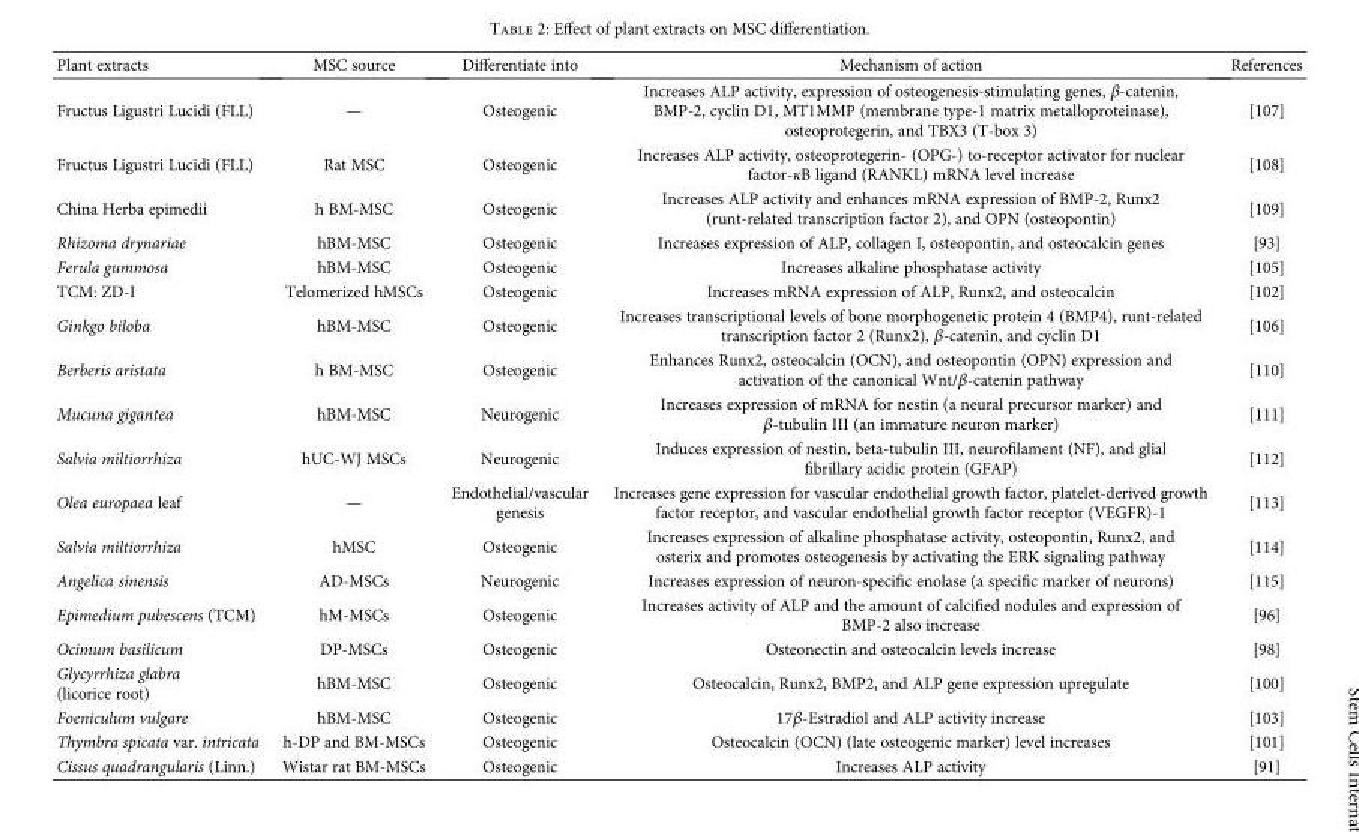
<table><thead><tr><td>Plant extracts</td><td>MSC source</td><td>Differentiate into</td><td>Mechanism of action</td><td>References</td></tr></thead><tbody><tr><td>Fructus Ligustri Lucidi (FLL)</td><td>—</td><td>Osteogenic</td><td>Increases ALP activity, expression of osteogenesis-stimulating genes, β-catenin, BMP-2, cyclin D1, MT1MMP (membrane type-1 matrix metalloproteinase), osteoprotegerin, and TBX3 (T-box 3)</td><td>[107]</td></tr><tr><td>Fructus Ligustri Lucidi (FLL)</td><td>Rat MSC</td><td>Osteogenic</td><td>Increases ALP activity, osteoprotegerin- (OPG-) to-receptor activator for nuclear factor-κB ligand (RANKL) mRNA level increase</td><td>[108]</td></tr><tr><td>China Herba epimedii</td><td>h BM-MSC</td><td>Osteogenic</td><td>Increases ALP activity and enhances mRNA expression of BMP-2, Runx2 (runt-related transcription factor 2), and OPN (osteopontin)</td><td>[109]</td></tr><tr><td>Rhizoma drynariae</td><td>hBM-MSC</td><td>Osteogenic</td><td>Increases expression of ALP, collagen I, osteopontin, and osteocalcin genes</td><td>[93]</td></tr><tr><td>Ferula gummosa</td><td>hBM-MSC</td><td>Osteogenic</td><td>Increases alkaline phosphatase activity</td><td>[105]</td></tr><tr><td>TCM: ZD-I</td><td>Telomerized hMSCs</td><td>Osteogenic</td><td>Increases mRNA expression of ALP, Runx2, and osteocalcin</td><td>[102]</td></tr><tr><td>Ginkgo biloba</td><td>hBM-MSC</td><td>Osteogenic</td><td>Increases transcriptional levels of bone morphogenetic protein 4 (BMP4), runt-related transcription factor 2 (Runx2), β-catenin, and cyclin D1</td><td>[106]</td></tr><tr><td>Berberis aristata</td><td>h BM-MSC</td><td>Osteogenic</td><td>Enhances Runx2, osteocalcin (OCN), and osteopontin (OPN) expression and activation of the canonical Wnt/β-catenin pathway</td><td>[110]</td></tr><tr><td>Mucuna gigantea</td><td>hBM-MSC</td><td>Neurogenic</td><td>Increases expression of mRNA for nestin (a neural precursor marker) and β-tubulin III (an immature neuron marker)</td><td>[111]</td></tr><tr><td>Salvia miltiorrhiza</td><td>hUC-WJ MSCs</td><td>Neurogenic</td><td>Induces expression of nestin, beta-tubulin III, neurofilament (NF), and glial fibrillary acidic protein (GFAP)</td><td>[112]</td></tr><tr><td>Olea europaea leaf</td><td>—</td><td>Endothelial/vascular genesis</td><td>Increases gene expression for vascular endothelial growth factor, platelet-derived growth factor receptor, and vascular endothelial growth factor receptor (VEGFR)-1</td><td>[113]</td></tr><tr><td>Salvia miltiorrhiza</td><td>hMSC</td><td>Osteogenic</td><td>Increases expression of alkaline phosphatase activity, osteopontin, Runx2, and osterix and promotes osteogenesis by activating the ERK signaling pathway</td><td>[114]</td></tr><tr><td>Angelica sinensis</td><td>AD-MSCs</td><td>Neurogenic</td><td>Increases expression of neuron-specific enolase (a specific marker of neurons)</td><td>[115]</td></tr><tr><td>Epimedium pubescens (TCM)</td><td>hM-MSCs</td><td>Osteogenic</td><td>Increases activity of ALP and the amount of calcified nodules and expression of BMP-2 also increase</td><td>[96]</td></tr><tr><td>Ocimum basilicum</td><td>DP-MSCs</td><td>Osteogenic</td><td>Osteonectin and osteocalcin levels increase</td><td>[98]</td></tr><tr><td>Glycyrrhiza glabra (licorice root)</td><td>hBM-MSC</td><td>Osteogenic</td><td>Osteocalcin, Runx2, BMP2, and ALP gene expression upregulate</td><td>[100]</td></tr><tr><td>Foeniculum vulgare</td><td>hBM-MSC</td><td>Osteogenic</td><td>17β-Estradiol and ALP activity increase</td><td>[103]</td></tr><tr><td>Thymbra spicata var. intricata</td><td>h-DP and BM-MSCs</td><td>Osteogenic</td><td>Osteocalcin (OCN) (late osteogenic marker) level increases</td><td>[101]</td></tr><tr><td>Cissus quadrangularis (Linn.)</td><td>Wistar rat BM-MSCs</td><td>Osteogenic</td><td>Increases ALP activity</td><td>[91]</td></tr></tbody></table>